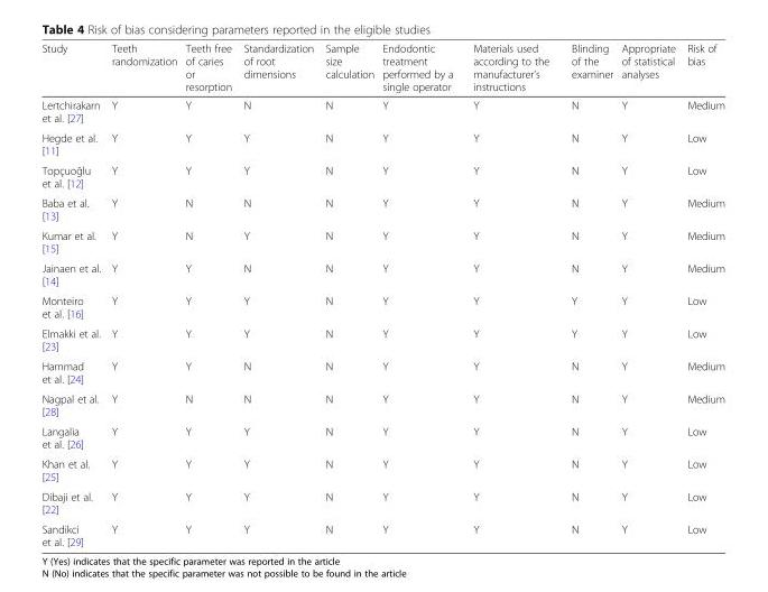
<table><thead><tr><td>Study</td><td>Teeth randomization</td><td>Teeth free of caries or resorption</td><td>Standardization of root dimensions</td><td>Sample size calculation</td><td>Endodontic treatment performed by a single operator</td><td>Materials used according to the manufacturer’s instructions</td><td>Blinding of the examiner</td><td>Appropriate of statistical analyses</td><td>Risk of bias</td></tr></thead><tbody><tr><td>Lertchirakarn et al. [27]</td><td>Y</td><td>Y</td><td>N</td><td>N</td><td>Y</td><td>Y</td><td>N</td><td>Y</td><td>Medium</td></tr><tr><td>Hegde et al. [11]</td><td>Y</td><td>Y</td><td>Y</td><td>N</td><td>Y</td><td>Y</td><td>N</td><td>Y</td><td>Low</td></tr><tr><td>Topçuoğlu et al. [12]</td><td>Y</td><td>Y</td><td>Y</td><td>N</td><td>Y</td><td>Y</td><td>N</td><td>Y</td><td>Low</td></tr><tr><td>Baba et al. [13]</td><td>Y</td><td>N</td><td>N</td><td>N</td><td>Y</td><td>Y</td><td>N</td><td>Y</td><td>Medium</td></tr><tr><td>Kumar et al. [15]</td><td>Y</td><td>N</td><td>Y</td><td>N</td><td>Y</td><td>Y</td><td>N</td><td>Y</td><td>Medium</td></tr><tr><td>Jainaen et al. [14]</td><td>Y</td><td>Y</td><td>N</td><td>N</td><td>Y</td><td>Y</td><td>N</td><td>Y</td><td>Medium</td></tr><tr><td>Monteiro et al. [16]</td><td>Y</td><td>Y</td><td>Y</td><td>N</td><td>Y</td><td>Y</td><td>Y</td><td>Y</td><td>Low</td></tr><tr><td>Elmakki et al. [23]</td><td>Y</td><td>Y</td><td>Y</td><td>N</td><td>Y</td><td>Y</td><td>Y</td><td>Y</td><td>Low</td></tr><tr><td>Hammad et al. [24]</td><td>Y</td><td>Y</td><td>N</td><td>N</td><td>Y</td><td>Y</td><td>N</td><td>Y</td><td>Medium</td></tr><tr><td>Nagpal et al. [28]</td><td>Y</td><td>N</td><td>N</td><td>N</td><td>Y</td><td>Y</td><td>N</td><td>Y</td><td>Medium</td></tr><tr><td>Langalia et al. [26]</td><td>Y</td><td>Y</td><td>Y</td><td>N</td><td>Y</td><td>Y</td><td>N</td><td>Y</td><td>Low</td></tr><tr><td>Khan et al. [25]</td><td>Y</td><td>Y</td><td>Y</td><td>N</td><td>Y</td><td>Y</td><td>N</td><td>Y</td><td>Low</td></tr><tr><td>Dibaji et al. [22]</td><td>Y</td><td>Y</td><td>Y</td><td>N</td><td>Y</td><td>Y</td><td>N</td><td>Y</td><td>Low</td></tr><tr><td>Sandikci et al. [29]</td><td>Y</td><td>Y</td><td>Y</td><td>N</td><td>Y</td><td>Y</td><td>N</td><td>Y</td><td>Low</td></tr></tbody></table>